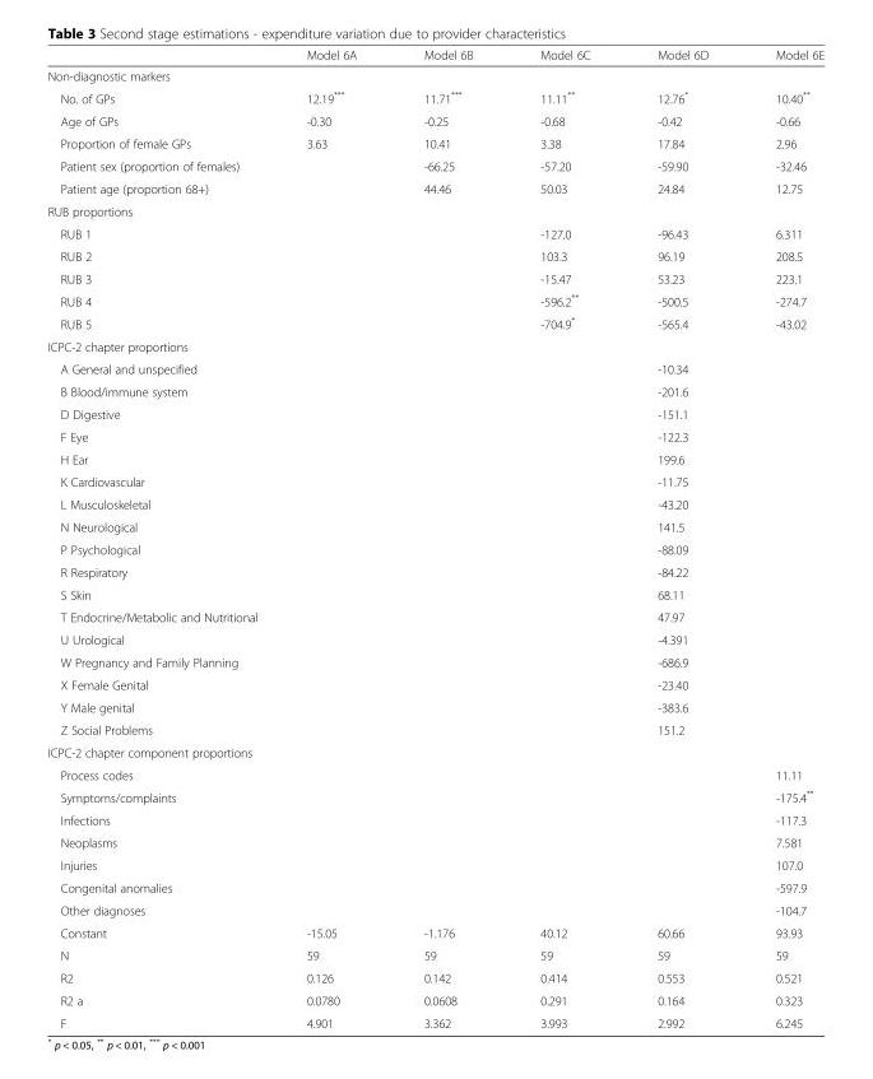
<table><thead><tr><td></td><td>Model 6A</td><td>Model 6B</td><td>Model 6C</td><td>Model 6D</td><td>Model 6E</td></tr></thead><tbody><tr><td colspan="6">Non-diagnostic markers</td></tr><tr><td>No. of GPs</td><td>12.19***</td><td>11.71***</td><td>11.11**</td><td>12.76*</td><td>10.40**</td></tr><tr><td>Age of GPs</td><td>-0.30</td><td>-0.25</td><td>-0.68</td><td>-0.42</td><td>-0.66</td></tr><tr><td>Proportion of female GPs</td><td>3.63</td><td>10.41</td><td>3.38</td><td>17.84</td><td>2.96</td></tr><tr><td>Patient sex (proportion of females)</td><td></td><td>-66.25</td><td>-57.20</td><td>-59.90</td><td>-32.46</td></tr><tr><td>Patient age (proportion 68+)</td><td></td><td>44.46</td><td>50.03</td><td>24.84</td><td>12.75</td></tr><tr><td colspan="6">RUB proportions</td></tr><tr><td>RUB 1</td><td></td><td></td><td>-127.0</td><td>-96.43</td><td>6.311</td></tr><tr><td>RUB 2</td><td></td><td></td><td>103.3</td><td>96.19</td><td>208.5</td></tr><tr><td>RUB 3</td><td></td><td></td><td>-15.47</td><td>53.23</td><td>223.1</td></tr><tr><td>RUB 4</td><td></td><td></td><td>-596.2**</td><td>-500.5</td><td>-274.7</td></tr><tr><td>RUB 5</td><td></td><td></td><td>-704.9*</td><td>-565.4</td><td>-43.02</td></tr><tr><td colspan="6">ICPC-2 chapter proportions</td></tr><tr><td>A General and unspecified</td><td></td><td></td><td></td><td>-10.34</td><td></td></tr><tr><td>B Blood/immune system</td><td></td><td></td><td></td><td>-201.6</td><td></td></tr><tr><td>D Digestive</td><td></td><td></td><td></td><td>-151.1</td><td></td></tr><tr><td>F Eye</td><td></td><td></td><td></td><td>-122.3</td><td></td></tr><tr><td>H Ear</td><td></td><td></td><td></td><td>199.6</td><td></td></tr><tr><td>K Cardiovascular</td><td></td><td></td><td></td><td>-11.75</td><td></td></tr><tr><td>L Musculoskeletal</td><td></td><td></td><td></td><td>-43.20</td><td></td></tr><tr><td>N Neurological</td><td></td><td></td><td></td><td>141.5</td><td></td></tr><tr><td>P Psychological</td><td></td><td></td><td></td><td>-88.09</td><td></td></tr><tr><td>R Respiratory</td><td></td><td></td><td></td><td>-84.22</td><td></td></tr><tr><td>S Skin</td><td></td><td></td><td></td><td>68.11</td><td></td></tr><tr><td colspan="2">T Endocrine/Metabolic and Nutritional</td><td></td><td></td><td>47.97</td><td></td></tr><tr><td>U Urological</td><td></td><td></td><td></td><td>-4.391</td><td></td></tr><tr><td colspan="2">W Pregnancy and Family Planning</td><td></td><td></td><td>-686.9</td><td></td></tr><tr><td>X Female Genital</td><td></td><td></td><td></td><td>-23.40</td><td></td></tr><tr><td>Y Male genital</td><td></td><td></td><td></td><td>-383.6</td><td></td></tr><tr><td>Z Social Problems</td><td></td><td></td><td></td><td>151.2</td><td></td></tr><tr><td colspan="6">ICPC-2 chapter component proportions</td></tr><tr><td>Process codes</td><td></td><td></td><td></td><td></td><td>11.11</td></tr><tr><td>Symptoms/complaints</td><td></td><td></td><td></td><td></td><td>-175.4**</td></tr><tr><td>Infections</td><td></td><td></td><td></td><td></td><td>-117.3</td></tr><tr><td>Neoplasms</td><td></td><td></td><td></td><td></td><td>7.581</td></tr><tr><td>Injuries</td><td></td><td></td><td></td><td></td><td>107.0</td></tr><tr><td>Congenital anomalies</td><td></td><td></td><td></td><td></td><td>-597.9</td></tr><tr><td>Other diagnoses</td><td></td><td></td><td></td><td></td><td>-104.7</td></tr><tr><td>Constant</td><td>-15.05</td><td>-1.176</td><td>40.12</td><td>60.66</td><td>93.93</td></tr><tr><td>N</td><td>59</td><td>59</td><td>59</td><td>59</td><td>59</td></tr><tr><td>R2</td><td>0.126</td><td>0.142</td><td>0.414</td><td>0.553</td><td>0.521</td></tr><tr><td>R2 a</td><td>0.0780</td><td>0.0608</td><td>0.291</td><td>0.164</td><td>0.323</td></tr><tr><td>F</td><td>4.901</td><td>3.362</td><td>3.993</td><td>2.992</td><td>6.245</td></tr></tbody></table>